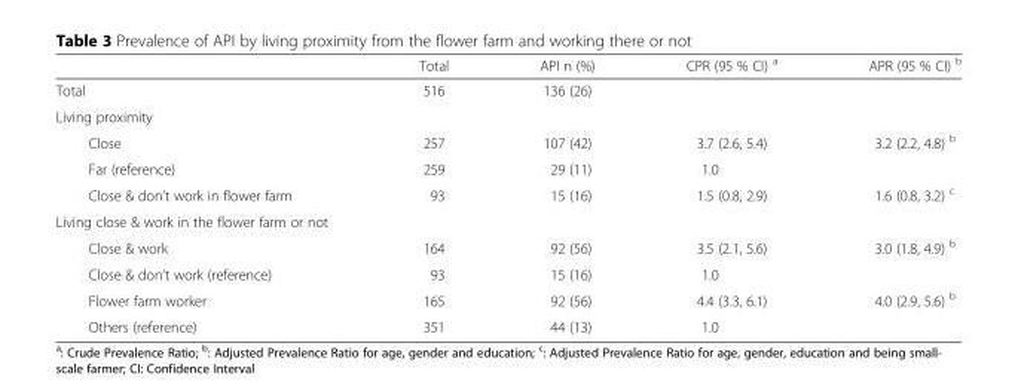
<table><thead><tr><td></td><td>Total</td><td>API n (%)</td><td>CPR (95 % CI) <sup>a</sup></td><td>APR (95 % CI) <sup>b</sup></td></tr></thead><tbody><tr><td>Total</td><td>516</td><td>136 (26)</td><td></td><td></td></tr><tr><td colspan="5">Living proximity</td></tr><tr><td>Close</td><td>257</td><td>107 (42)</td><td>3.7 (2.6, 5.4)</td><td>3.2 (2.2, 4.8) <sup>b</sup></td></tr><tr><td>Far (reference)</td><td>259</td><td>29 (11)</td><td>1.0</td><td></td></tr><tr><td>Close &amp; don’t work in flower farm</td><td>93</td><td>15 (16)</td><td>1.5 (0.8, 2.9)</td><td>1.6 (0.8, 3.2) <sup>c</sup></td></tr><tr><td colspan="5">Living close &amp; work in the flower farm or not</td></tr><tr><td>Close &amp; work</td><td>164</td><td>92 (56)</td><td>3.5 (2.1, 5.6)</td><td>3.0 (1.8, 4.9) <sup>b</sup></td></tr><tr><td>Close &amp; don’t work (reference)</td><td>93</td><td>15 (16)</td><td>1.0</td><td></td></tr><tr><td>Flower farm worker</td><td>165</td><td>92 (56)</td><td>4.4 (3.3, 6.1)</td><td>4.0 (2.9, 5.6) <sup>b</sup></td></tr><tr><td>Others (reference)</td><td>351</td><td>44 (13)</td><td>1.0</td><td></td></tr></tbody></table>